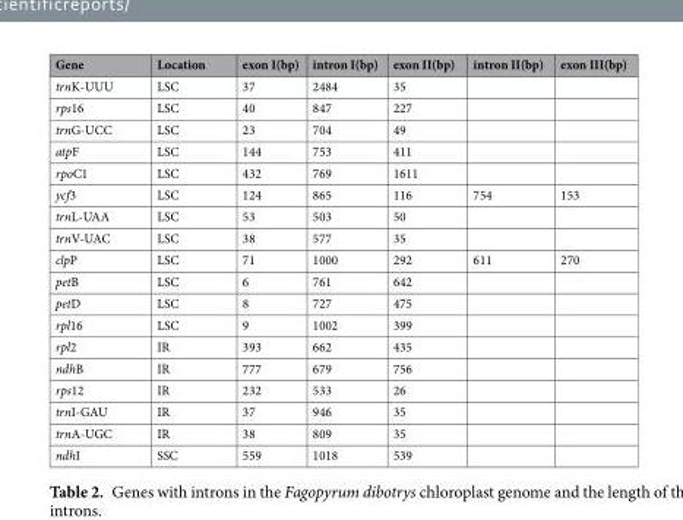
<table><thead><tr><td>Gene</td><td>Location</td><td>exon I(bp)</td><td>intron I(bp)</td><td>exon II(bp)</td><td>intron II(bp)</td><td>exon III(bp)</td></tr></thead><tbody><tr><td>trnK-UUU</td><td>LSC</td><td>37</td><td>2484</td><td>35</td><td></td><td></td></tr><tr><td>rps16</td><td>LSC</td><td>40</td><td>847</td><td>227</td><td></td><td></td></tr><tr><td>trnG-UCC</td><td>LSC</td><td>23</td><td>704</td><td>49</td><td></td><td></td></tr><tr><td>atpF</td><td>LSC</td><td>144</td><td>753</td><td>411</td><td></td><td></td></tr><tr><td>rpoC1</td><td>LSC</td><td>432</td><td>769</td><td>1611</td><td></td><td></td></tr><tr><td>ycf3</td><td>LSC</td><td>124</td><td>865</td><td>116</td><td>754</td><td>153</td></tr><tr><td>trnL-UAA</td><td>LSC</td><td>53</td><td>503</td><td>50</td><td></td><td></td></tr><tr><td>trnV-UAC</td><td>LSC</td><td>38</td><td>577</td><td>35</td><td></td><td></td></tr><tr><td>clpP</td><td>LSC</td><td>71</td><td>1000</td><td>292</td><td>611</td><td>270</td></tr><tr><td>petB</td><td>LSC</td><td>6</td><td>761</td><td>642</td><td></td><td></td></tr><tr><td>petD</td><td>LSC</td><td>8</td><td>727</td><td>475</td><td></td><td></td></tr><tr><td>rpl16</td><td>LSC</td><td>9</td><td>1002</td><td>399</td><td></td><td></td></tr><tr><td>rpl2</td><td>IR</td><td>393</td><td>662</td><td>435</td><td></td><td></td></tr><tr><td>ndhB</td><td>IR</td><td>777</td><td>679</td><td>756</td><td></td><td></td></tr><tr><td>rps12</td><td>IR</td><td>232</td><td>533</td><td>26</td><td></td><td></td></tr><tr><td>trnI-GAU</td><td>IR</td><td>37</td><td>946</td><td>35</td><td></td><td></td></tr><tr><td>trnA-UGC</td><td>IR</td><td>38</td><td>809</td><td>35</td><td></td><td></td></tr><tr><td>ndhI</td><td>SSC</td><td>559</td><td>1018</td><td>539</td><td></td><td></td></tr></tbody></table>